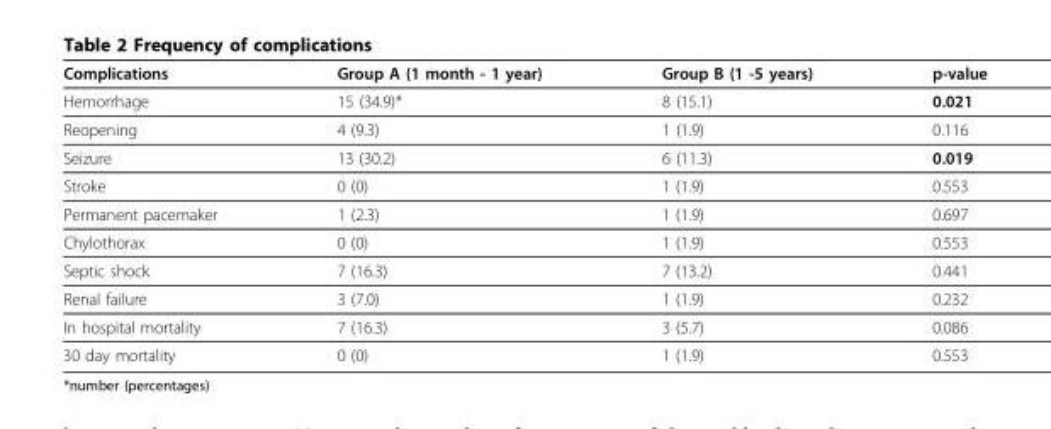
<table><thead><tr><td>Complications</td><td>Group A (1 month - 1 year)</td><td>Group B (1 -5 years)</td><td>p-value</td></tr></thead><tbody><tr><td>Hemorrhage</td><td>15 (34.9)*</td><td>8 (15.1)</td><td>0.021</td></tr><tr><td>Reopening</td><td>4 (9.3)</td><td>1 (1.9)</td><td>0.116</td></tr><tr><td>Seizure</td><td>13 (30.2)</td><td>6 (11.3)</td><td>0.019</td></tr><tr><td>Stroke</td><td>0 (0)</td><td>1 (1.9)</td><td>0.553</td></tr><tr><td>Permanent pacemaker</td><td>1 (2.3)</td><td>1 (1.9)</td><td>0.697</td></tr><tr><td>Chylothorax</td><td>0 (0)</td><td>1 (1.9)</td><td>0.553</td></tr><tr><td>Septic shock</td><td>7 (16.3)</td><td>7 (13.2)</td><td>0.441</td></tr><tr><td>Renal failure</td><td>3 (7.0)</td><td>1 (1.9)</td><td>0.232</td></tr><tr><td>In hospital mortality</td><td>7 (16.3)</td><td>3 (5.7)</td><td>0.086</td></tr><tr><td>30 day mortality</td><td>0 (0)</td><td>1 (1.9)</td><td>0.553</td></tr></tbody></table>